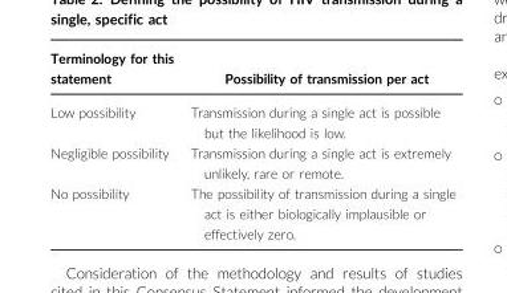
<table><thead><tr><td>Terminology for this statement</td><td>Possibility of transmission per act</td></tr></thead><tbody><tr><td>Low possibility</td><td>Transmission during a single act is possible but the likelihood is low.</td></tr><tr><td>Negligible possibility</td><td>Transmission during a single act is extremely unlikely, rare or remote.</td></tr><tr><td>No possibility</td><td>The possibility of transmission during a single act is either biologically implausible or effectively zero.</td></tr></tbody></table>